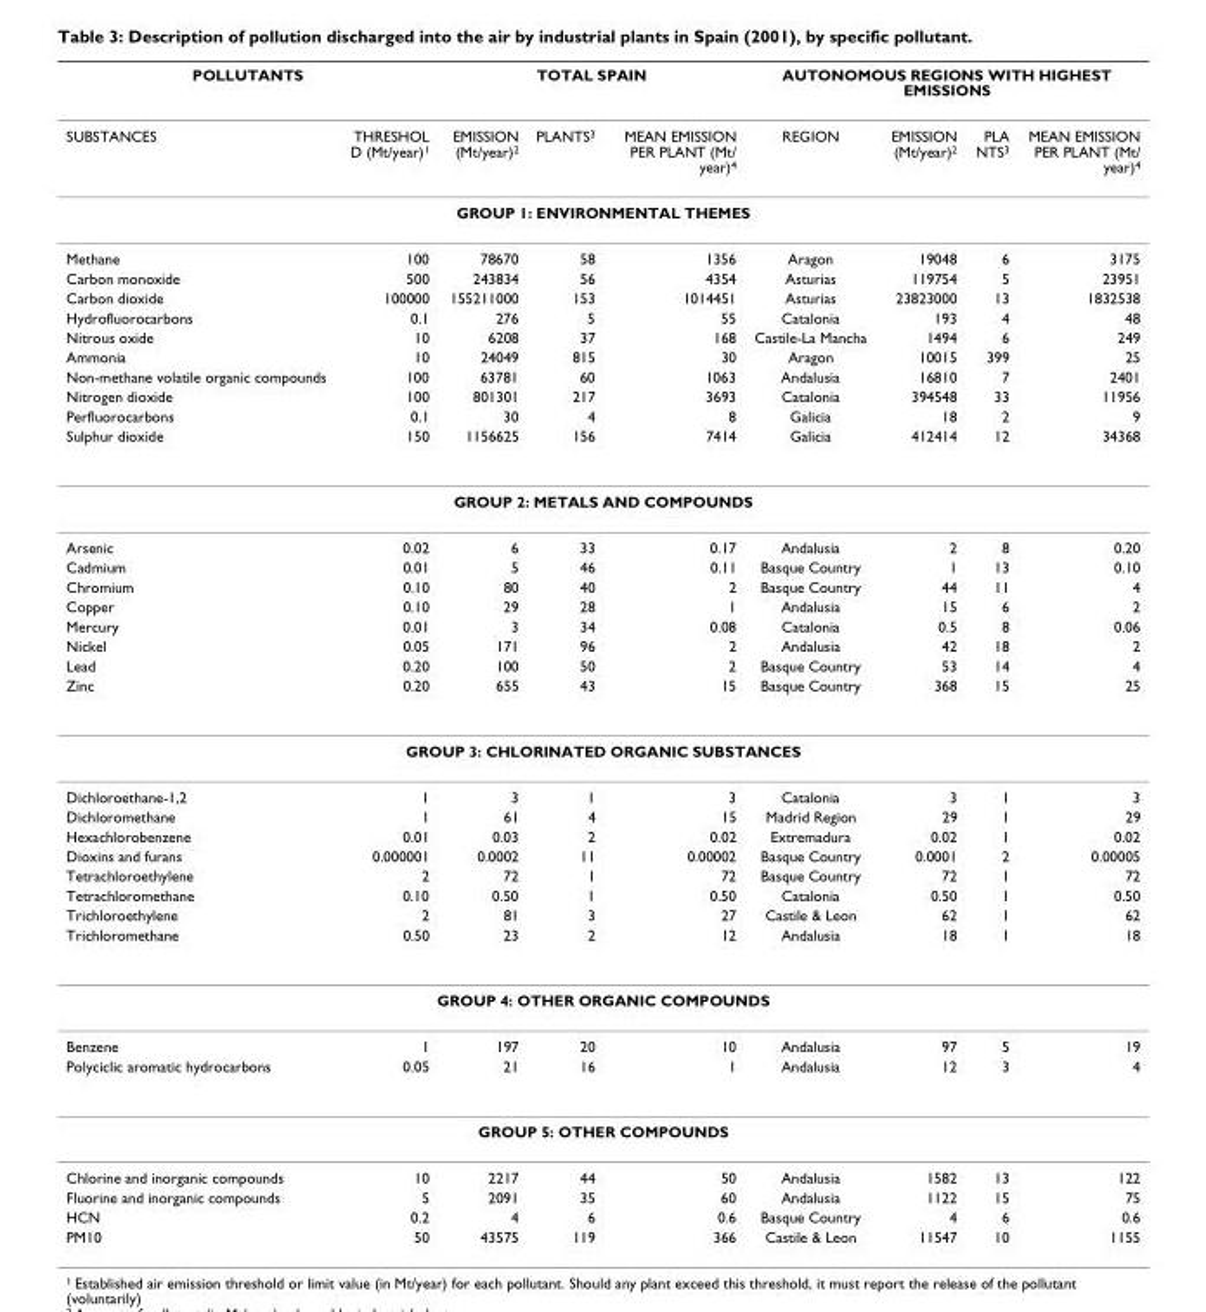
<table><thead><tr><td colspan="2">POLLUTANTS</td><td colspan="3">TOTAL SPAIN</td><td colspan="4">AUTONOMOUS REGIONS WITH HIGHEST EMISSIONS</td></tr><tr><td>SUBSTANCES</td><td>THRESHOL D (Mt/year)<sup>1</sup></td><td>EMISSION (Mt/year)<sup>2</sup></td><td>PLANTS<sup>3</sup></td><td>MEAN EMISSION PER PLANT (Mt/ year)<sup>4</sup></td><td>REGION</td><td>EMISSION (Mt/year)<sup>2</sup></td><td>PLA NTS<sup>3</sup></td><td>MEAN EMISSION PER PLANT (Mt/ year)<sup>4</sup></td></tr></thead><tbody><tr><td colspan="9">GROUP 1: ENVIRONMENTAL THEMES</td></tr><tr><td>Methane</td><td>100</td><td>78670</td><td>58</td><td>1356</td><td>Aragon</td><td>19048</td><td>6</td><td>3175</td></tr><tr><td>Carbon monoxide</td><td>500</td><td>243834</td><td>56</td><td>4354</td><td>Asturias</td><td>119754</td><td>5</td><td>23951</td></tr><tr><td>Carbon dioxide</td><td>100000</td><td>155211000</td><td>153</td><td>1014451</td><td>Asturias</td><td>23823000</td><td>13</td><td>1832538</td></tr><tr><td>Hydrofluorocarbons</td><td>0.1</td><td>276</td><td>5</td><td>55</td><td>Catalonia</td><td>193</td><td>4</td><td>48</td></tr><tr><td>Nitrous oxide</td><td>10</td><td>6208</td><td>37</td><td>168</td><td>Castile-La Mancha</td><td>1494</td><td>6</td><td>249</td></tr><tr><td>Ammonia</td><td>10</td><td>24049</td><td>815</td><td>30</td><td>Aragon</td><td>10015</td><td>399</td><td>25</td></tr><tr><td>Non-methane volatile organic compounds</td><td>100</td><td>63781</td><td>60</td><td>1063</td><td>Andalusia</td><td>16810</td><td>7</td><td>2401</td></tr><tr><td>Nitrogen dioxide</td><td>100</td><td>801301</td><td>217</td><td>3693</td><td>Catalonia</td><td>394548</td><td>33</td><td>11956</td></tr><tr><td>Perfluorocarbons</td><td>0.1</td><td>30</td><td>4</td><td>8</td><td>Galicia</td><td>18</td><td>2</td><td>9</td></tr><tr><td>Sulphur dioxide</td><td>150</td><td>1156625</td><td>156</td><td>7414</td><td>Galicia</td><td>412414</td><td>12</td><td>34368</td></tr><tr><td colspan="9">GROUP 2: METALS AND COMPOUNDS</td></tr><tr><td>Arsenic</td><td>0.02</td><td>6</td><td>33</td><td>0.17</td><td>Andalusia</td><td>2</td><td>8</td><td>0.20</td></tr><tr><td>Cadmium</td><td>0.01</td><td>5</td><td>46</td><td>0.11</td><td>Basque Country</td><td>1</td><td>13</td><td>0.10</td></tr><tr><td>Chromium</td><td>0.10</td><td>80</td><td>40</td><td>2</td><td>Basque Country</td><td>44</td><td>11</td><td>4</td></tr><tr><td>Copper</td><td>0.10</td><td>29</td><td>28</td><td>1</td><td>Andalusia</td><td>15</td><td>6</td><td>2</td></tr><tr><td>Mercury</td><td>0.01</td><td>3</td><td>34</td><td>0.08</td><td>Catalonia</td><td>0.5</td><td>8</td><td>0.06</td></tr><tr><td>Nickel</td><td>0.05</td><td>171</td><td>96</td><td>2</td><td>Andalusia</td><td>42</td><td>18</td><td>2</td></tr><tr><td>Lead</td><td>0.20</td><td>100</td><td>50</td><td>2</td><td>Basque Country</td><td>53</td><td>14</td><td>4</td></tr><tr><td>Zinc</td><td>0.20</td><td>655</td><td>43</td><td>15</td><td>Basque Country</td><td>368</td><td>15</td><td>25</td></tr><tr><td colspan="9">GROUP 3: CHLORINATED ORGANIC SUBSTANCES</td></tr><tr><td>Dichloroethane-1,2</td><td>1</td><td>3</td><td>1</td><td>3</td><td>Catalonia</td><td>3</td><td>1</td><td>3</td></tr><tr><td>Dichloromethane</td><td>1</td><td>61</td><td>4</td><td>15</td><td>Madrid Region</td><td>29</td><td>1</td><td>29</td></tr><tr><td>Hexachlorobenzene</td><td>0.01</td><td>0.03</td><td>2</td><td>0.02</td><td>Extremadura</td><td>0.02</td><td>1</td><td>0.02</td></tr><tr><td>Dioxins and furans</td><td>0.000001</td><td>0.0002</td><td>11</td><td>0.00002</td><td>Basque Country</td><td>0.0001</td><td>2</td><td>0.00005</td></tr><tr><td>Tetrachloroethylene</td><td>2</td><td>72</td><td>1</td><td>72</td><td>Basque Country</td><td>72</td><td>1</td><td>72</td></tr><tr><td>Tetrachloromethane</td><td>0.10</td><td>0.50</td><td>1</td><td>0.50</td><td>Catalonia</td><td>0.50</td><td>1</td><td>0.50</td></tr><tr><td>Trichloroethylene</td><td>2</td><td>81</td><td>3</td><td>27</td><td>Castile &amp; Leon</td><td>62</td><td>1</td><td>62</td></tr><tr><td>Trichloromethane</td><td>0.50</td><td>23</td><td>2</td><td>12</td><td>Andalusia</td><td>18</td><td>1</td><td>18</td></tr><tr><td colspan="9">GROUP 4: OTHER ORGANIC COMPOUNDS</td></tr><tr><td>Benzene</td><td>1</td><td>197</td><td>20</td><td>10</td><td>Andalusia</td><td>97</td><td>5</td><td>19</td></tr><tr><td>Polyciclic aromatic hydrocarbons</td><td>0.05</td><td>21</td><td>16</td><td>1</td><td>Andalusia</td><td>12</td><td>3</td><td>4</td></tr><tr><td colspan="9">GROUP 5: OTHER COMPOUNDS</td></tr><tr><td>Chlorine and inorganic compounds</td><td>10</td><td>2217</td><td>44</td><td>50</td><td>Andalusia</td><td>1582</td><td>13</td><td>122</td></tr><tr><td>Fluorine and inorganic compounds</td><td>5</td><td>2091</td><td>35</td><td>60</td><td>Andalusia</td><td>1122</td><td>15</td><td>75</td></tr><tr><td>HCN</td><td>0.2</td><td>4</td><td>6</td><td>0.6</td><td>Basque Country</td><td>4</td><td>6</td><td>0.6</td></tr><tr><td>PM10</td><td>50</td><td>43575</td><td>119</td><td>366</td><td>Castile &amp; Leon</td><td>11547</td><td>10</td><td>1155</td></tr></tbody></table>